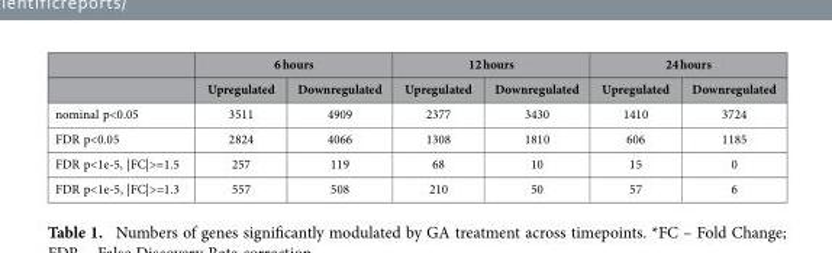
<table><thead><tr><td rowspan="2"></td><td colspan="2">6 hours</td><td colspan="2">12 hours</td><td colspan="2">24 hours</td></tr><tr><td>Upregulated</td><td>Downregulated</td><td>Upregulated</td><td>Downregulated</td><td>Upregulated</td><td>Downregulated</td></tr></thead><tbody><tr><td>nominal p&lt;0.05</td><td>3511</td><td>4909</td><td>2377</td><td>3430</td><td>1410</td><td>3724</td></tr><tr><td>FDR p&lt;0.05</td><td>2824</td><td>4066</td><td>1308</td><td>1810</td><td>606</td><td>1185</td></tr><tr><td>FDR p&lt;1e-5, |FC|&gt;=1.5</td><td>257</td><td>119</td><td>68</td><td>10</td><td>15</td><td>0</td></tr><tr><td>FDR p&lt;1e-5, |FC|&gt;=1.3</td><td>557</td><td>508</td><td>210</td><td>50</td><td>57</td><td>6</td></tr></tbody></table>